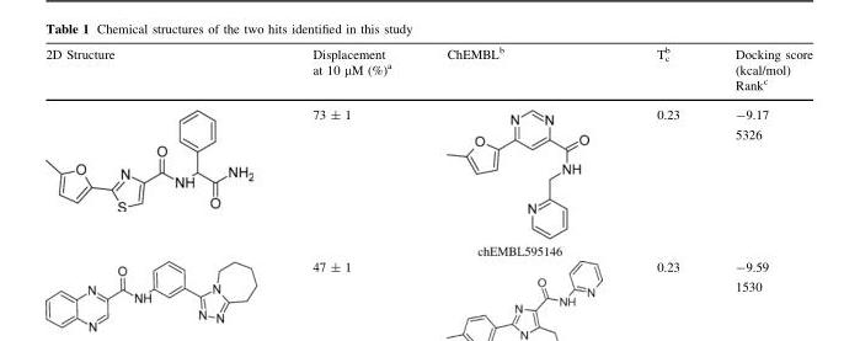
<table><thead><tr><td>2D Structure</td><td>Displacement at 10 μM (%)<sup>a</sup></td><td>ChEMBL<sup>b</sup></td><td>T<sub>c</sub> <sup>b</sup></td><td>Docking score (kcal/mol) Rank<sup>c</sup></td></tr></thead><tbody><tr><td></td><td>73 ± 1</td><td></td><td>0.23</td><td>-9.17 5326</td></tr><tr><td></td><td>47 ± 1</td><td></td><td>0.23</td><td>-9.59 1530</td></tr></tbody></table>